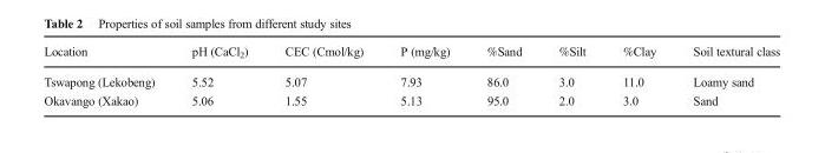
<table><thead><tr><td>Location</td><td>pH (CaCl<sub>2</sub>)</td><td>CEC (Cmol/kg)</td><td>P (mg/kg)</td><td>%Sand</td><td>%Silt</td><td>%Clay</td><td>Soil textural class</td></tr></thead><tbody><tr><td>Tswapong (Lekobeng)</td><td>5.52</td><td>5.07</td><td>7.93</td><td>86.0</td><td>3.0</td><td>11.0</td><td>Loamy sand</td></tr><tr><td>Okavango (Xakao)</td><td>5.06</td><td>1.55</td><td>5.13</td><td>95.0</td><td>2.0</td><td>3.0</td><td>Sand</td></tr></tbody></table>